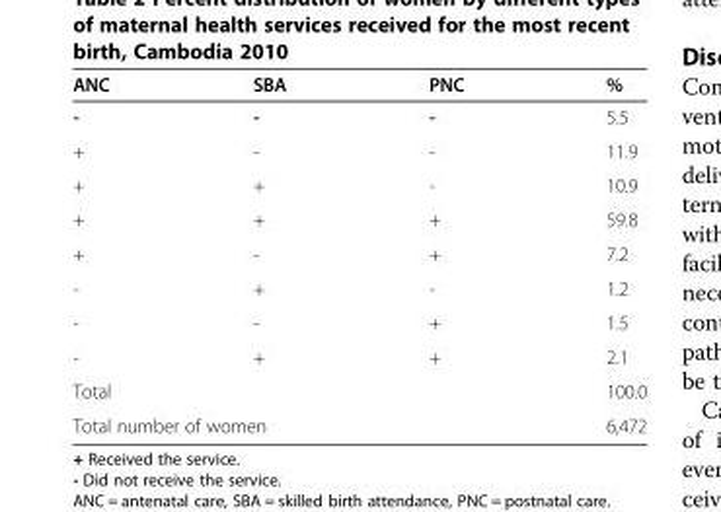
<table><thead><tr><td>ANC</td><td>SBA</td><td>PNC</td><td>%</td></tr></thead><tbody><tr><td>-</td><td>-</td><td>-</td><td>5.5</td></tr><tr><td>+</td><td>-</td><td>-</td><td>11.9</td></tr><tr><td>+</td><td>+</td><td>-</td><td>10.9</td></tr><tr><td>+</td><td>+</td><td>+</td><td>59.8</td></tr><tr><td>+</td><td>-</td><td>+</td><td>7.2</td></tr><tr><td>-</td><td>+</td><td>-</td><td>1.2</td></tr><tr><td>-</td><td>-</td><td>+</td><td>1.5</td></tr><tr><td>-</td><td>+</td><td>+</td><td>2.1</td></tr><tr><td>Total</td><td></td><td></td><td>100.0</td></tr><tr><td colspan="3">Total number of women</td><td>6,472</td></tr></tbody></table>